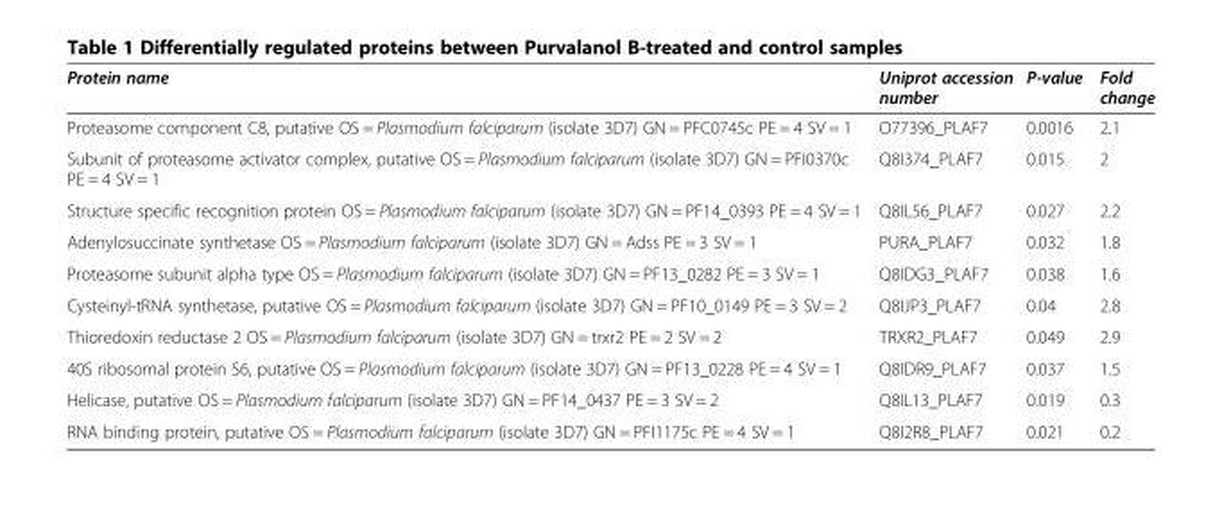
<table><thead><tr><td>Protein name</td><td>Uniprot accession number</td><td>P-value</td><td>Fold change</td></tr></thead><tbody><tr><td>Proteasome component C8, putative OS = Plasmodium falciparum (isolate 3D7) GN = PFC0745c PE = 4 SV = 1</td><td>O77396_PLAF7</td><td>0.0016</td><td>2.1</td></tr><tr><td>Subunit of proteasome activator complex, putative OS = Plasmodium falciparum (isolate 3D7) GN = PFI0370c PE = 4 SV = 1</td><td>Q8I374_PLAF7</td><td>0.015</td><td>2</td></tr><tr><td>Structure specific recognition protein OS = Plasmodium falciparum (isolate 3D7) GN = PF14_0393 PE = 4 SV = 1</td><td>Q8IL56_PLAF7</td><td>0.027</td><td>2.2</td></tr><tr><td>Adenylosuccinate synthetase OS = Plasmodium falciparum (isolate 3D7) GN = Adss PE = 3 SV = 1</td><td>PURA_PLAF7</td><td>0.032</td><td>1.8</td></tr><tr><td>Proteasome subunit alpha type OS = Plasmodium falciparum (isolate 3D7) GN = PF13_0282 PE = 3 SV = 1</td><td>Q8IDG3_PLAF7</td><td>0.038</td><td>1.6</td></tr><tr><td>Cysteinyl-tRNA synthetase, putative OS = Plasmodium falciparum (isolate 3D7) GN = PF10_0149 PE = 3 SV = 2</td><td>Q8IJP3_PLAF7</td><td>0.04</td><td>2.8</td></tr><tr><td>Thioredoxin reductase 2 OS = Plasmodium falciparum (isolate 3D7) GN = trxr2 PE = 2 SV = 2</td><td>TRXR2_PLAF7</td><td>0.049</td><td>2.9</td></tr><tr><td>40S ribosomal protein S6, putative OS = Plasmodium falciparum (isolate 3D7) GN = PF13_0228 PE = 4 SV = 1</td><td>Q8IDR9_PLAF7</td><td>0.037</td><td>1.5</td></tr><tr><td>Helicase, putative OS = Plasmodium falciparum (isolate 3D7) GN = PF14_0437 PE = 3 SV = 2</td><td>Q8IL13_PLAF7</td><td>0.019</td><td>0.3</td></tr><tr><td>RNA binding protein, putative OS = Plasmodium falciparum (isolate 3D7) GN = PFI1175c PE = 4 SV = 1</td><td>Q8I2R8_PLAF7</td><td>0.021</td><td>0.2</td></tr></tbody></table>